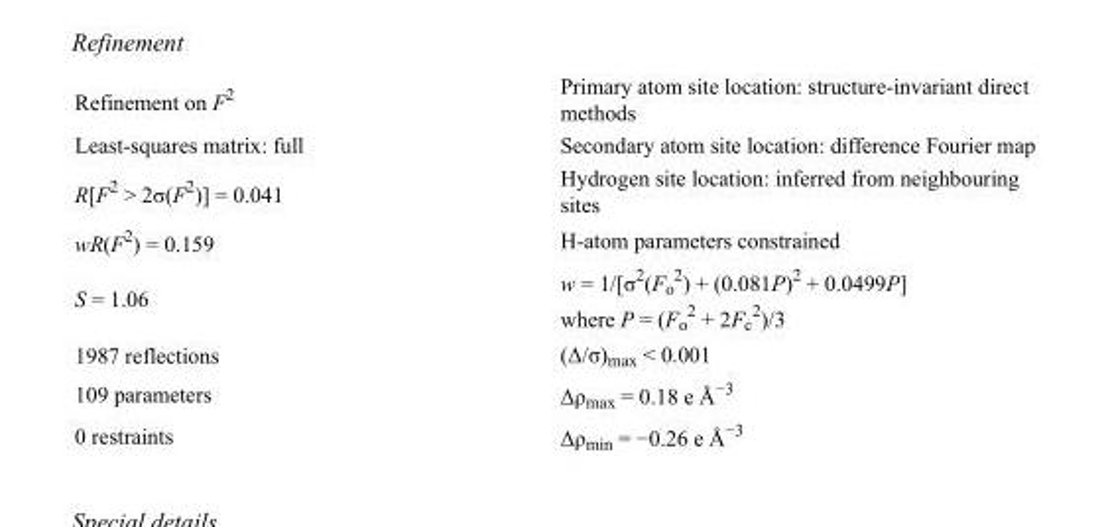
<table><tbody><tr><td>Refinement on F<sup>2</sup></td><td>Primary atom site location: structure-invariant direct methods</td></tr><tr><td>Least-squares matrix: full</td><td>Secondary atom site location: difference Fourier map</td></tr><tr><td>R[F<sup>2</sup> &gt; 2σ(F<sup>2</sup>)] = 0.041</td><td>Hydrogen site location: inferred from neighbouring sites</td></tr><tr><td>wR(F<sup>2</sup>) = 0.159</td><td>H-atom parameters constrained</td></tr><tr><td>S = 1.06</td><td>w = 1/[σ<sup>2</sup>(F<sub>o</sub> <sup>2</sup>) + (0.081P)<sup>2</sup> + 0.0499P] where P = (F<sub>o</sub> <sup>2</sup> + 2F<sub>c</sub> <sup>2</sup>)/3</td></tr><tr><td>1987 reflections</td><td>(Δ/σ)<sub>max</sub> &lt; 0.001</td></tr><tr><td>109 parameters</td><td>Δρ<sub>max</sub> = 0.18 e Å<sup>−3</sup></td></tr><tr><td>0 restraints</td><td>Δρ<sub>min</sub> = −0.26 e Å<sup>−3</sup></td></tr></tbody></table>